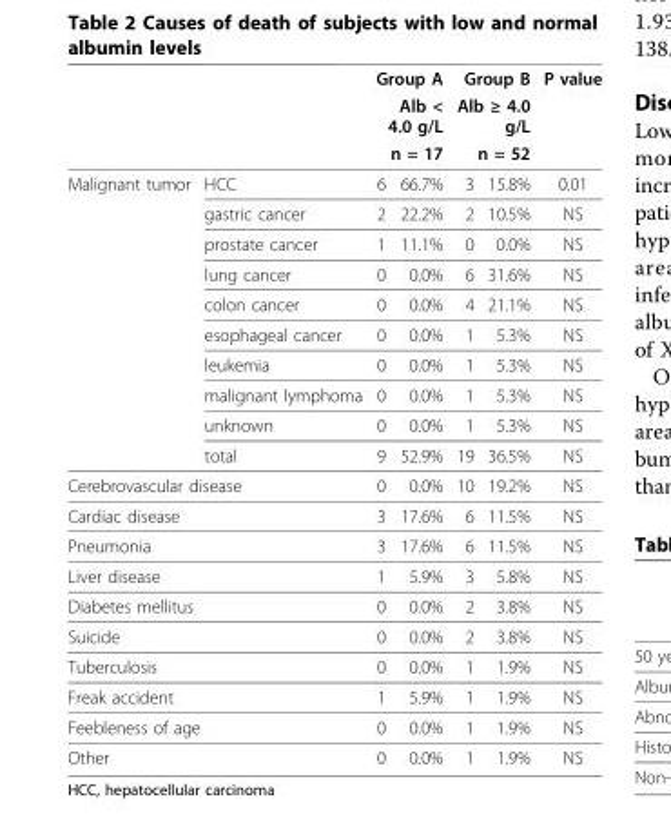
<table><thead><tr><td rowspan="4">Malignant tumor</td><td rowspan="4">HCC</td><td rowspan="3" colspan="2">Group A Alb &lt; 4.0 g/L n = 17</td><td rowspan="3" colspan="2">Group B Alb ≥ 4.0 g/L n = 52</td><td rowspan="4">P value 0.01</td></tr><tr></tr><tr></tr><tr><td>6</td><td>66.7%</td><td>3</td><td>15.8%</td></tr></thead><tbody><tr><td></td><td>gastric cancer</td><td>2</td><td>22.2%</td><td>2</td><td>10.5%</td><td>NS</td></tr><tr><td></td><td>prostate cancer</td><td>1</td><td>11.1%</td><td>0</td><td>0.0%</td><td>NS</td></tr><tr><td></td><td>lung cancer</td><td>0</td><td>0.0%</td><td>6</td><td>31.6%</td><td>NS</td></tr><tr><td></td><td>colon cancer</td><td>0</td><td>0.0%</td><td>4</td><td>21.1%</td><td>NS</td></tr><tr><td></td><td>esophageal cancer</td><td>0</td><td>0.0%</td><td>1</td><td>5.3%</td><td>NS</td></tr><tr><td></td><td>leukemia</td><td>0</td><td>0.0%</td><td>1</td><td>5.3%</td><td>NS</td></tr><tr><td></td><td>malignant lymphoma</td><td>0</td><td>0.0%</td><td>1</td><td>5.3%</td><td>NS</td></tr><tr><td></td><td>unknown</td><td>0</td><td>0.0%</td><td>1</td><td>5.3%</td><td>NS</td></tr><tr><td></td><td>total</td><td>9</td><td>52.9%</td><td>19</td><td>36.5%</td><td>NS</td></tr><tr><td colspan="2">Cerebrovascular disease</td><td>0</td><td>0.0%</td><td>10</td><td>19.2%</td><td>NS</td></tr><tr><td colspan="2">Cardiac disease</td><td>3</td><td>17.6%</td><td>6</td><td>11.5%</td><td>NS</td></tr><tr><td colspan="2">Pneumonia</td><td>3</td><td>17.6%</td><td>6</td><td>11.5%</td><td>NS</td></tr><tr><td colspan="2">Liver disease</td><td>1</td><td>5.9%</td><td>3</td><td>5.8%</td><td>NS</td></tr><tr><td colspan="2">Diabetes mellitus</td><td>0</td><td>0.0%</td><td>2</td><td>3.8%</td><td>NS</td></tr><tr><td colspan="2">Suicide</td><td>0</td><td>0.0%</td><td>2</td><td>3.8%</td><td>NS</td></tr><tr><td colspan="2">Tuberculosis</td><td>0</td><td>0.0%</td><td>1</td><td>1.9%</td><td>NS</td></tr><tr><td colspan="2">Freak accident</td><td>1</td><td>5.9%</td><td>1</td><td>1.9%</td><td>NS</td></tr><tr><td colspan="2">Feebleness of age</td><td>0</td><td>0.0%</td><td>1</td><td>1.9%</td><td>NS</td></tr><tr><td colspan="2">Other</td><td>0</td><td>0.0%</td><td>1</td><td>1.9%</td><td>NS</td></tr></tbody></table>